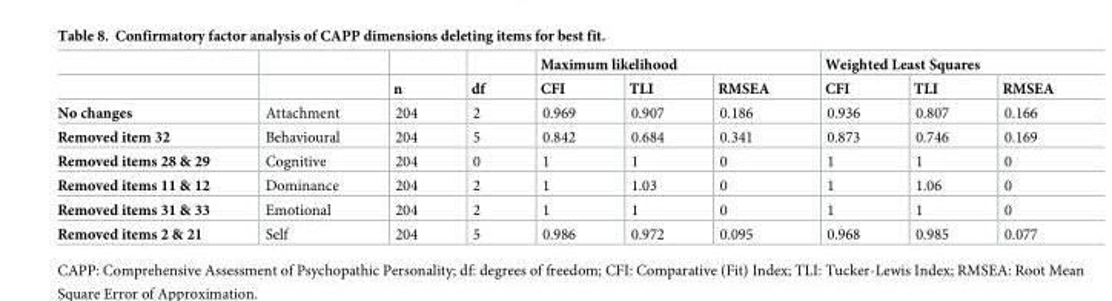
<table><thead><tr><td rowspan="2"></td><td rowspan="2"></td><td rowspan="2">n</td><td rowspan="2">df</td><td colspan="3">Maximum likelihood</td><td colspan="3">Weighted Least Squares</td></tr><tr><td>CFI</td><td>TLI</td><td>RMSEA</td><td>CFI</td><td>TLI</td><td>RMSEA</td></tr></thead><tbody><tr><td>No changes</td><td>Attachment</td><td>204</td><td>2</td><td>0.969</td><td>0.907</td><td>0.186</td><td>0.936</td><td>0.807</td><td>0.166</td></tr><tr><td>Removed item 32</td><td>Behavioural</td><td>204</td><td>5</td><td>0.842</td><td>0.684</td><td>0.341</td><td>0.873</td><td>0.746</td><td>0.169</td></tr><tr><td>Removed items 28 &amp; 29</td><td>Cognitive</td><td>204</td><td>0</td><td>1</td><td>1</td><td>0</td><td>1</td><td>1</td><td>0</td></tr><tr><td>Removed items 11 &amp; 12</td><td>Dominance</td><td>204</td><td>2</td><td>1</td><td>1.03</td><td>0</td><td>1</td><td>1.06</td><td>0</td></tr><tr><td>Removed items 31 &amp; 33</td><td>Emotional</td><td>204</td><td>2</td><td>1</td><td>1</td><td>0</td><td>1</td><td>1</td><td>0</td></tr><tr><td>Removed items 2 &amp; 21</td><td>Self</td><td>204</td><td>5</td><td>0.986</td><td>0.972</td><td>0.095</td><td>0.968</td><td>0.985</td><td>0.077</td></tr></tbody></table>